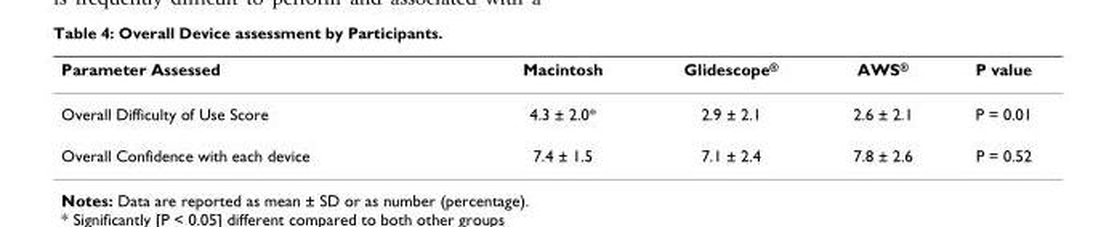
<table><thead><tr><td>Parameter Assessed</td><td>Macintosh</td><td>Glidescope<sup>®</sup></td><td>AWS<sup>®</sup></td><td>P value</td></tr></thead><tbody><tr><td>Overall Difficulty of Use Score</td><td>4.3 ± 2.0*</td><td>2.9 ± 2.1</td><td>2.6 ± 2.1</td><td>P = 0.01</td></tr><tr><td>Overall Confidence with each device</td><td>7.4 ± 1.5</td><td>7.1 ± 2.4</td><td>7.8 ± 2.6</td><td>P = 0.52</td></tr></tbody></table>